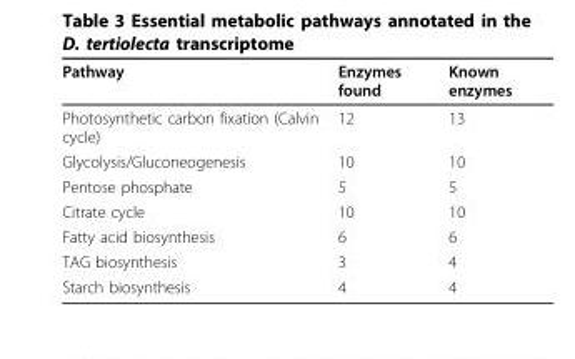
<table><thead><tr><td>Pathway</td><td>Enzymes found</td><td>Known enzymes</td></tr></thead><tbody><tr><td>Photosynthetic carbon fixation (Calvin cycle)</td><td>12</td><td>13</td></tr><tr><td>Glycolysis/Gluconeogenesis</td><td>10</td><td>10</td></tr><tr><td>Pentose phosphate</td><td>5</td><td>5</td></tr><tr><td>Citrate cycle</td><td>10</td><td>10</td></tr><tr><td>Fatty acid biosynthesis</td><td>6</td><td>6</td></tr><tr><td>TAG biosynthesis</td><td>3</td><td>4</td></tr><tr><td>Starch biosynthesis</td><td>4</td><td>4</td></tr></tbody></table>